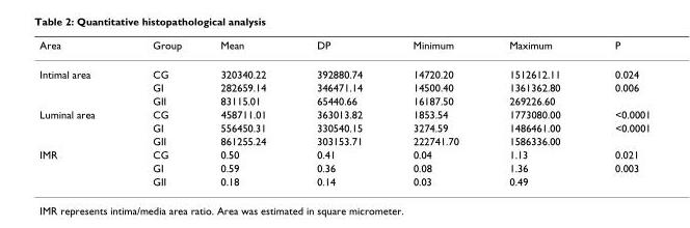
<table><thead><tr><td>Area</td><td>Group</td><td>Mean</td><td>DP</td><td>Minimum</td><td>Maximum</td><td>P</td></tr></thead><tbody><tr><td rowspan="3">Intimal area</td><td>CG</td><td>320340.22</td><td>392880.74</td><td>14720.20</td><td>1512612.11</td><td>0.024</td></tr><tr><td>GI</td><td>282659.14</td><td>346471.14</td><td>14500.40</td><td>1361362.80</td><td>0.006</td></tr><tr><td>GII</td><td>83115.01</td><td>65440.66</td><td>16187.50</td><td>269226.60</td><td></td></tr><tr><td rowspan="3">Luminal area</td><td>CG</td><td>458711.01</td><td>363013.82</td><td>1853.54</td><td>1773080.00</td><td>&lt;0.0001</td></tr><tr><td>GI</td><td>556450.31</td><td>330540.15</td><td>3274.59</td><td>1486461.00</td><td>&lt;0.0001</td></tr><tr><td>GII</td><td>861255.24</td><td>303153.71</td><td>222741.70</td><td>1586336.00</td><td></td></tr><tr><td rowspan="3">IMR</td><td>CG</td><td>0.50</td><td>0.41</td><td>0.04</td><td>1.13</td><td>0.021</td></tr><tr><td>GI</td><td>0.59</td><td>0.36</td><td>0.08</td><td>1.36</td><td>0.003</td></tr><tr><td>GII</td><td>0.18</td><td>0.14</td><td>0.03</td><td>0.49</td><td></td></tr></tbody></table>